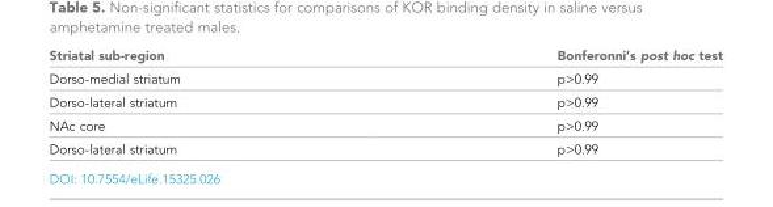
<table><thead><tr><td>Striatal sub-region</td><td>Bonferonni’s post hoc test</td></tr></thead><tbody><tr><td>Dorso-medial striatum</td><td>p&gt;0.99</td></tr><tr><td>Dorso-lateral striatum</td><td>p&gt;0.99</td></tr><tr><td>NAc core</td><td>p&gt;0.99</td></tr><tr><td>Dorso-lateral striatum</td><td>p&gt;0.99</td></tr></tbody></table>